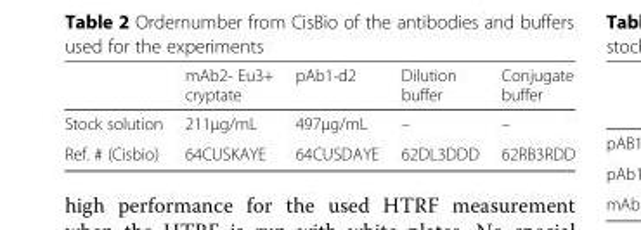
<table><thead><tr><td></td><td>mAb2- Eu3+ cryptate</td><td>pAb1-d2</td><td>Dilution buffer</td><td>Conjugate buffer</td></tr></thead><tbody><tr><td>Stock solution</td><td>211μg/mL</td><td>497μg/mL</td><td>–</td><td>–</td></tr><tr><td>Ref. # (Cisbio)</td><td>64CUSKAYE</td><td>64CUSDAYE</td><td>62DL3DDD</td><td>62RB3RDD</td></tr></tbody></table>